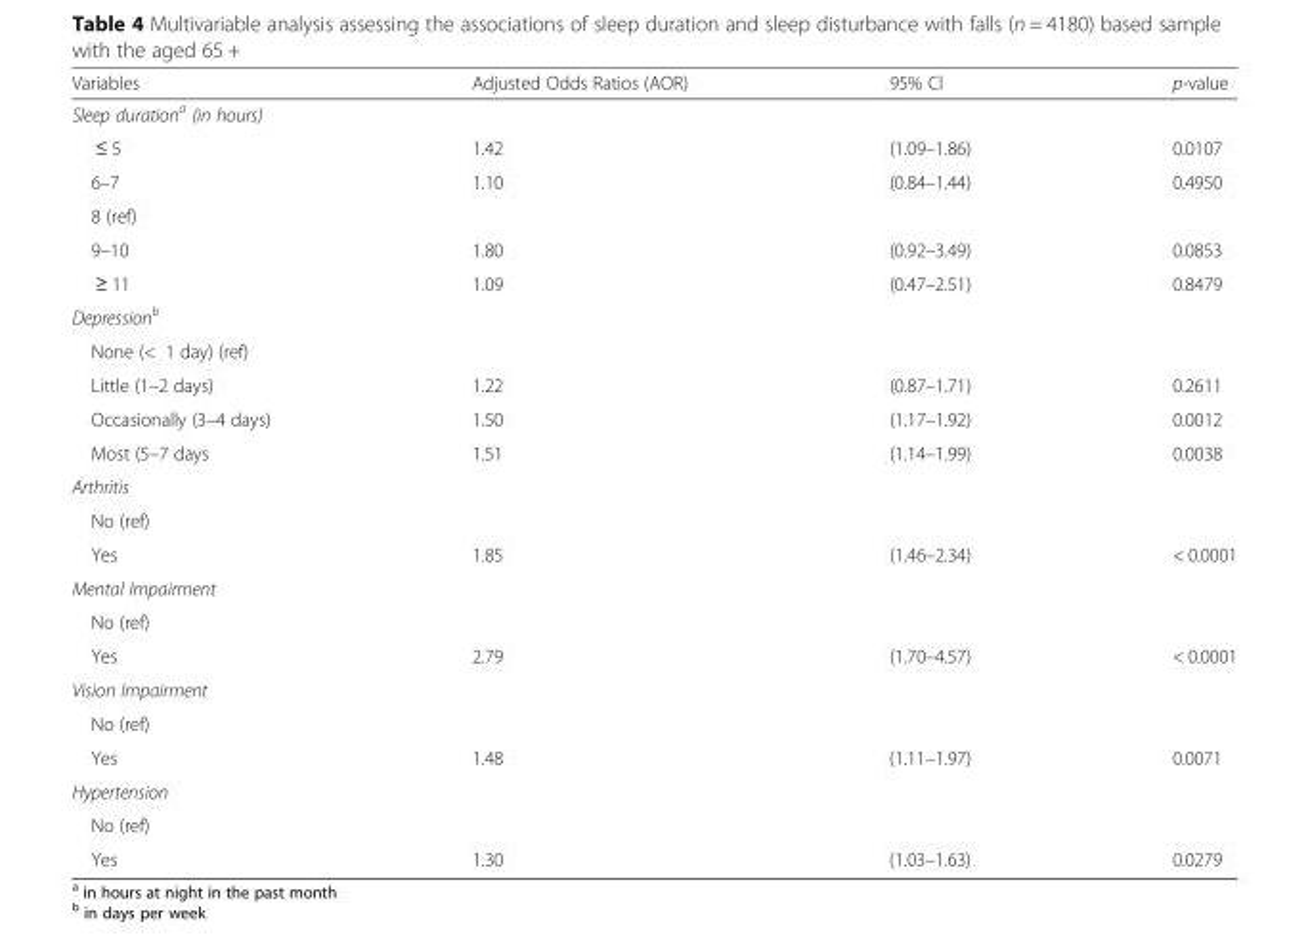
<table><thead><tr><td>Variables</td><td>Adjusted Odds Ratios (AOR)</td><td>95% Cl</td><td>p-value</td></tr></thead><tbody><tr><td colspan="4">Sleep duration<sup>a</sup> (in hours)</td></tr><tr><td>≤ 5</td><td>1.42</td><td>(1.09–1.86)</td><td>0.0107</td></tr><tr><td>6–7</td><td>1.10</td><td>(0.84–1.44)</td><td>0.4950</td></tr><tr><td colspan="4">8 (ref)</td></tr><tr><td>9–10</td><td>1.80</td><td>(0.92–3.49)</td><td>0.0853</td></tr><tr><td>≥ 11</td><td>1.09</td><td>(0.47–2.51)</td><td>0.8479</td></tr><tr><td colspan="4">Depression<sup>b</sup></td></tr><tr><td colspan="4">None (&lt; 1 day) (ref)</td></tr><tr><td>Little (1–2 days)</td><td>1.22</td><td>(0.87–1.71)</td><td>0.2611</td></tr><tr><td>Occasionally (3–4 days)</td><td>1.50</td><td>(1.17–1.92)</td><td>0.0012</td></tr><tr><td>Most (5–7 days</td><td>1.51</td><td>(1.14–1.99)</td><td>0.0038</td></tr><tr><td colspan="4">Arthritis</td></tr><tr><td colspan="4">No (ref)</td></tr><tr><td>Yes</td><td>1.85</td><td>(1.46–2.34)</td><td>&lt; 0.0001</td></tr><tr><td colspan="4">Mental Impairment</td></tr><tr><td colspan="4">No (ref)</td></tr><tr><td>Yes</td><td>2.79</td><td>(1.70–4.57)</td><td>&lt; 0.0001</td></tr><tr><td colspan="4">Vision Impairment</td></tr><tr><td colspan="4">No (ref)</td></tr><tr><td>Yes</td><td>1.48</td><td>(1.11–1.97)</td><td>0.0071</td></tr><tr><td colspan="4">Hypertension</td></tr><tr><td colspan="4">No (ref)</td></tr><tr><td>Yes</td><td>1.30</td><td>(1.03–1.63)</td><td>0.0279</td></tr></tbody></table>